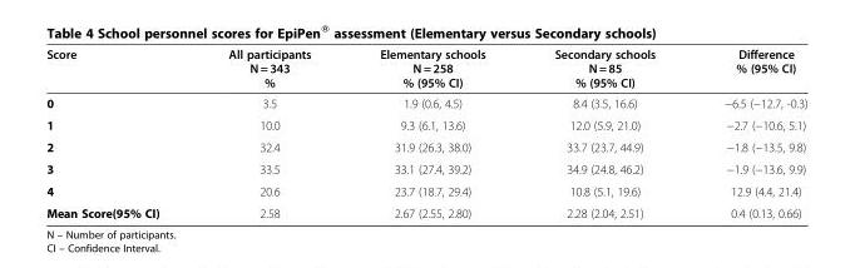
<table><thead><tr><td>Score</td><td>All participants N = 343 %</td><td>Elementary schools N = 258 % (95% CI)</td><td>Secondary schools N = 85 % (95% CI)</td><td>Difference % (95% CI)</td></tr></thead><tbody><tr><td>0</td><td>3.5</td><td>1.9 (0.6, 4.5)</td><td>8.4 (3.5, 16.6)</td><td>−6.5 (−12.7, -0.3)</td></tr><tr><td>1</td><td>10.0</td><td>9.3 (6.1, 13.6)</td><td>12.0 (5.9, 21.0)</td><td>−2.7 (−10.6, 5.1)</td></tr><tr><td>2</td><td>32.4</td><td>31.9 (26.3, 38.0)</td><td>33.7 (23.7, 44.9)</td><td>−1.8 (−13.5, 9.8)</td></tr><tr><td>3</td><td>33.5</td><td>33.1 (27.4, 39.2)</td><td>34.9 (24.8, 46.2)</td><td>−1.9 (−13.6, 9.9)</td></tr><tr><td>4</td><td>20.6</td><td>23.7 (18.7, 29.4)</td><td>10.8 (5.1, 19.6)</td><td>12.9 (4.4, 21.4)</td></tr><tr><td>Mean Score(95% CI)</td><td>2.58</td><td>2.67 (2.55, 2.80)</td><td>2.28 (2.04, 2.51)</td><td>0.4 (0.13, 0.66)</td></tr></tbody></table>